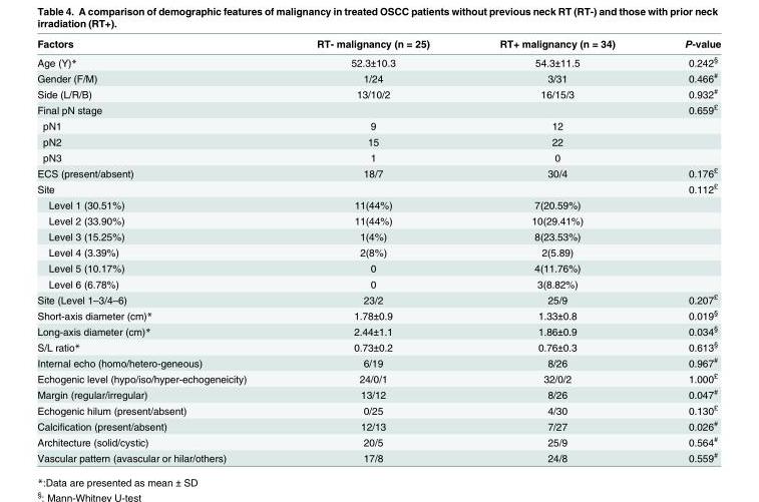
<table><thead><tr><td>Factors</td><td>RT- malignancy (n = 25)</td><td>RT+ malignancy (n = 34)</td><td>P-value</td></tr></thead><tbody><tr><td>Age (Y)*</td><td>52.3±10.3</td><td>54.3±11.5</td><td>0.242<sup>§</sup></td></tr><tr><td>Gender (F/M)</td><td>1/24</td><td>3/31</td><td>0.466<sup>#</sup></td></tr><tr><td>Side (L/R/B)</td><td>13/10/2</td><td>16/15/3</td><td>0.932<sup>#</sup></td></tr><tr><td>Final pN stage</td><td></td><td></td><td>0.659<sup>£</sup></td></tr><tr><td>pN1</td><td>9</td><td>12</td><td></td></tr><tr><td>pN2</td><td>15</td><td>22</td><td></td></tr><tr><td>pN3</td><td>1</td><td>0</td><td></td></tr><tr><td>ECS (present/absent)</td><td>18/7</td><td>30/4</td><td>0.176<sup>£</sup></td></tr><tr><td>Site</td><td></td><td></td><td>0.112<sup>£</sup></td></tr><tr><td>Level 1 (30.51%)</td><td>11(44%)</td><td>7(20.59%)</td><td></td></tr><tr><td>Level 2 (33.90%)</td><td>11(44%)</td><td>10(29.41%)</td><td></td></tr><tr><td>Level 3 (15.25%)</td><td>1(4%)</td><td>8(23.53%)</td><td></td></tr><tr><td>Level 4 (3.39%)</td><td>2(8%)</td><td>2(5.89)</td><td></td></tr><tr><td>Level 5 (10.17%)</td><td>0</td><td>4(11.76%)</td><td></td></tr><tr><td>Level 6 (6.78%)</td><td>0</td><td>3(8.82%)</td><td></td></tr><tr><td>Site (Level 1–3/4–6)</td><td>23/2</td><td>25/9</td><td>0.207<sup>£</sup></td></tr><tr><td>Short-axis diameter (cm)*</td><td>1.78±0.9</td><td>1.33±0.8</td><td>0.019<sup>§</sup></td></tr><tr><td>Long-axis diameter (cm)*</td><td>2.44±1.1</td><td>1.86±0.9</td><td>0.034<sup>§</sup></td></tr><tr><td>S/L ratio*</td><td>0.73±0.2</td><td>0.76±0.3</td><td>0.613<sup>§</sup></td></tr><tr><td>Internal echo (homo/hetero-geneous)</td><td>6/19</td><td>8/26</td><td>0.967<sup>#</sup></td></tr><tr><td>Echogenic level (hypo/iso/hyper-echogeneicity)</td><td>24/0/1</td><td>32/0/2</td><td>1.000<sup>£</sup></td></tr><tr><td>Margin (regular/irregular)</td><td>13/12</td><td>8/26</td><td>0.047<sup>#</sup></td></tr><tr><td>Echogenic hilum (present/absent)</td><td>0/25</td><td>4/30</td><td>0.130<sup>£</sup></td></tr><tr><td>Calcification (present/absent)</td><td>12/13</td><td>7/27</td><td>0.026<sup>#</sup></td></tr><tr><td>Architecture (solid/cystic)</td><td>20/5</td><td>25/9</td><td>0.564<sup>#</sup></td></tr><tr><td>Vascular pattern (avascular or hilar/others)</td><td>17/8</td><td>24/8</td><td>0.559<sup>#</sup></td></tr></tbody></table>